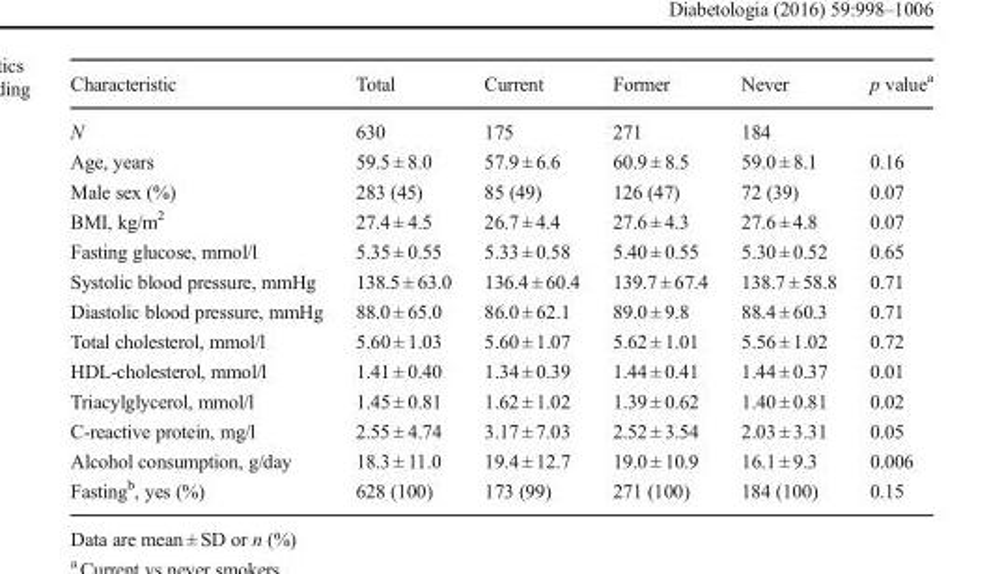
<table><thead><tr><td>Characteristic</td><td>Total</td><td>Current</td><td>Former</td><td>Never</td><td>p value<sup>a</sup></td></tr></thead><tbody><tr><td>N</td><td>630</td><td>175</td><td>271</td><td>184</td><td></td></tr><tr><td>Age, years</td><td>59.5 ± 8.0</td><td>57.9 ± 6.6</td><td>60.9 ± 8.5</td><td>59.0 ± 8.1</td><td>0.16</td></tr><tr><td>Male sex (%)</td><td>283 (45)</td><td>85 (49)</td><td>126 (47)</td><td>72 (39)</td><td>0.07</td></tr><tr><td>BMI, kg/m<sup>2</sup></td><td>27.4 ± 4.5</td><td>26.7 ± 4.4</td><td>27.6 ± 4.3</td><td>27.6 ± 4.8</td><td>0.07</td></tr><tr><td>Fasting glucose, mmol/l</td><td>5.35 ± 0.55</td><td>5.33 ± 0.58</td><td>5.40 ± 0.55</td><td>5.30 ± 0.52</td><td>0.65</td></tr><tr><td>Systolic blood pressure, mmHg</td><td>138.5 ± 63.0</td><td>136.4 ± 60.4</td><td>139.7 ± 67.4</td><td>138.7 ± 58.8</td><td>0.71</td></tr><tr><td>Diastolic blood pressure, mmHg</td><td>88.0 ± 65.0</td><td>86.0 ± 62.1</td><td>89.0 ± 9.8</td><td>88.4 ± 60.3</td><td>0.71</td></tr><tr><td>Total cholesterol, mmol/l</td><td>5.60 ± 1.03</td><td>5.60 ± 1.07</td><td>5.62 ± 1.01</td><td>5.56 ± 1.02</td><td>0.72</td></tr><tr><td>HDL-cholesterol, mmol/l</td><td>1.41 ± 0.40</td><td>1.34 ± 0.39</td><td>1.44 ± 0.41</td><td>1.44 ± 0.37</td><td>0.01</td></tr><tr><td>Triacylglycerol, mmol/l</td><td>1.45 ± 0.81</td><td>1.62 ± 1.02</td><td>1.39 ± 0.62</td><td>1.40 ± 0.81</td><td>0.02</td></tr><tr><td>C-reactive protein, mg/l</td><td>2.55 ± 4.74</td><td>3.17 ± 7.03</td><td>2.52 ± 3.54</td><td>2.03 ± 3.31</td><td>0.05</td></tr><tr><td>Alcohol consumption, g/day</td><td>18.3 ± 11.0</td><td>19.4 ± 12.7</td><td>19.0 ± 10.9</td><td>16.1 ± 9.3</td><td>0.006</td></tr><tr><td>Fasting<sup>b</sup>, yes (%)</td><td>628 (100)</td><td>173 (99)</td><td>271 (100)</td><td>184 (100)</td><td>0.15</td></tr></tbody></table>